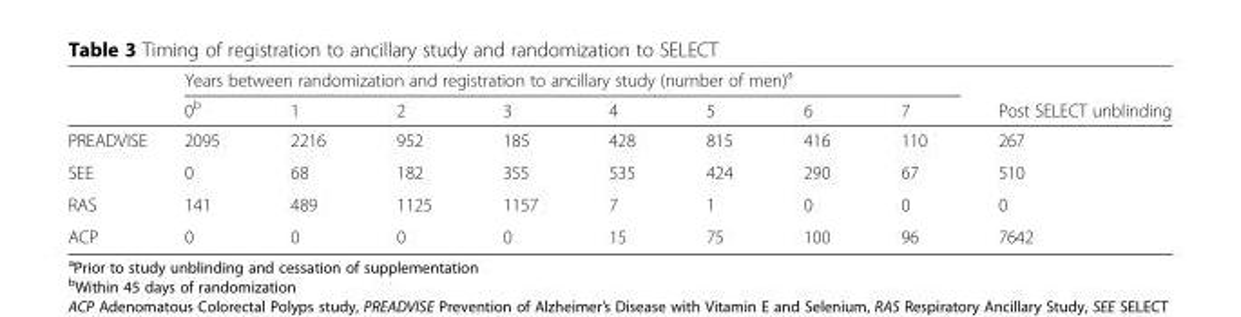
<table><thead><tr><td rowspan="2"></td><td colspan="8">Years between randomization and registration to ancillary study (number of men)<sup>a</sup></td><td rowspan="2">Post SELECT unblinding</td></tr><tr><td>0<sup>b</sup></td><td>1</td><td>2</td><td>3</td><td>4</td><td>5</td><td>6</td><td>7</td></tr></thead><tbody><tr><td>PREADVISE</td><td>2095</td><td>2216</td><td>952</td><td>185</td><td>428</td><td>815</td><td>416</td><td>110</td><td>267</td></tr><tr><td>SEE</td><td>0</td><td>68</td><td>182</td><td>355</td><td>535</td><td>424</td><td>290</td><td>67</td><td>510</td></tr><tr><td>RAS</td><td>141</td><td>489</td><td>1125</td><td>1157</td><td>7</td><td>1</td><td>0</td><td>0</td><td>0</td></tr><tr><td>ACP</td><td>0</td><td>0</td><td>0</td><td>0</td><td>15</td><td>75</td><td>100</td><td>96</td><td>7642</td></tr></tbody></table>